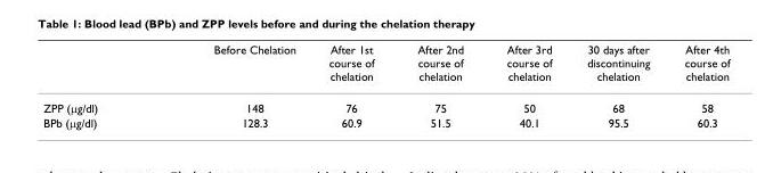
<table><thead><tr><td></td><td>Before Chelation</td><td>After 1st course of chelation</td><td>After 2nd course of chelation</td><td>After 3rd course of chelation</td><td>30 days after discontinuing chelation</td><td>After 4th course of chelation</td></tr></thead><tbody><tr><td>ZPP (µg/dl)</td><td>148</td><td>76</td><td>75</td><td>50</td><td>68</td><td>58</td></tr><tr><td>BPb (µg/dl)</td><td>128.3</td><td>60.9</td><td>51.5</td><td>40.1</td><td>95.5</td><td>60.3</td></tr></tbody></table>